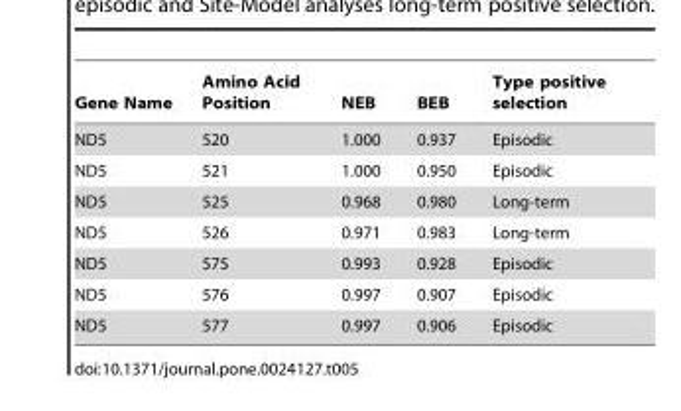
<table><thead><tr><td>Gene Name</td><td>Amino Acid Position</td><td>NEB</td><td>BEB</td><td>Type positive selection</td></tr></thead><tbody><tr><td>ND5</td><td>520</td><td>1.000</td><td>0.937</td><td>Episodic</td></tr><tr><td>ND5</td><td>521</td><td>1.000</td><td>0.950</td><td>Episodic</td></tr><tr><td>ND5</td><td>525</td><td>0.968</td><td>0.980</td><td>Long-term</td></tr><tr><td>ND5</td><td>526</td><td>0.971</td><td>0.983</td><td>Long-term</td></tr><tr><td>ND5</td><td>575</td><td>0.993</td><td>0.928</td><td>Episodic</td></tr><tr><td>ND5</td><td>576</td><td>0.997</td><td>0.907</td><td>Episodic</td></tr><tr><td>ND5</td><td>577</td><td>0.997</td><td>0.906</td><td>Episodic</td></tr></tbody></table>